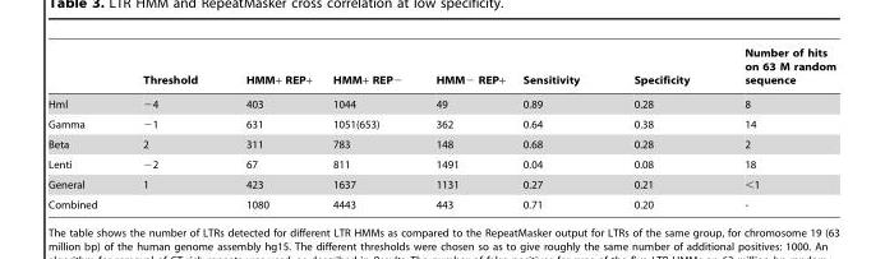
<table><thead><tr><td></td><td>Threshold</td><td>HMM+ REP+</td><td>HMM+ REP−</td><td>HMM− REP+</td><td>Sensitivity</td><td>Specificity</td><td>Number of hits on 63 M random sequence</td></tr></thead><tbody><tr><td>Hml</td><td>−4</td><td>403</td><td>1044</td><td>49</td><td>0.89</td><td>0.28</td><td>8</td></tr><tr><td>Gamma</td><td>−1</td><td>631</td><td>1051(653)</td><td>362</td><td>0.64</td><td>0.38</td><td>14</td></tr><tr><td>Beta</td><td>2</td><td>311</td><td>783</td><td>148</td><td>0.68</td><td>0.28</td><td>2</td></tr><tr><td>Lenti</td><td>−2</td><td>67</td><td>811</td><td>1491</td><td>0.04</td><td>0.08</td><td>18</td></tr><tr><td>General</td><td>1</td><td>423</td><td>1637</td><td>1131</td><td>0.27</td><td>0.21</td><td>&lt;1</td></tr><tr><td>Combined</td><td></td><td>1080</td><td>4443</td><td>443</td><td>0.71</td><td>0.20</td><td>-</td></tr></tbody></table>